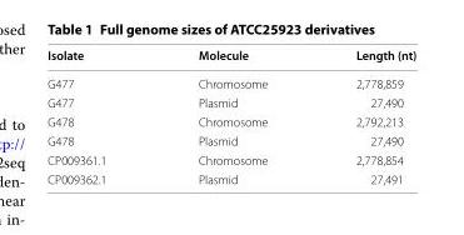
<table><thead><tr><td>Isolate</td><td>Molecule</td><td>Length (nt)</td></tr></thead><tbody><tr><td>G477</td><td>Chromosome</td><td>2,778,859</td></tr><tr><td>G477</td><td>Plasmid</td><td>27,490</td></tr><tr><td>G478</td><td>Chromosome</td><td>2,792,213</td></tr><tr><td>G478</td><td>Plasmid</td><td>27,490</td></tr><tr><td>CP009361.1</td><td>Chromosome</td><td>2,778,854</td></tr><tr><td>CP009362.1</td><td>Plasmid</td><td>27,491</td></tr></tbody></table>